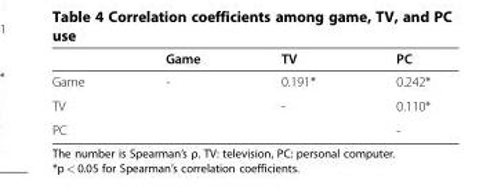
<table><thead><tr><td></td><td>Game</td><td>TV</td><td>PC</td></tr></thead><tbody><tr><td>Game</td><td>-</td><td>0.191*</td><td>0.242*</td></tr><tr><td>TV</td><td></td><td>-</td><td>0.110*</td></tr><tr><td>PC</td><td></td><td></td><td>-</td></tr></tbody></table>